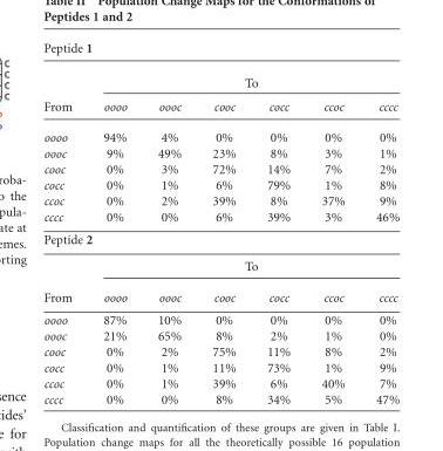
<table><thead><tr><td colspan="7">Peptide 1</td></tr><tr><td rowspan="2">From</td><td colspan="6">To</td></tr><tr><td>oooo</td><td>oooc</td><td>cooc</td><td>cocc</td><td>ccoc</td><td>cccc</td></tr></thead><tbody><tr><td>oooo</td><td>94%</td><td>4%</td><td>0%</td><td>0%</td><td>0%</td><td>0%</td></tr><tr><td>oooc</td><td>9%</td><td>49%</td><td>23%</td><td>8%</td><td>3%</td><td>1%</td></tr><tr><td>cooc</td><td>0%</td><td>3%</td><td>72%</td><td>14%</td><td>7%</td><td>2%</td></tr><tr><td>cocc</td><td>0%</td><td>1%</td><td>6%</td><td>79%</td><td>1%</td><td>8%</td></tr><tr><td>ccoc</td><td>0%</td><td>2%</td><td>39%</td><td>8%</td><td>37%</td><td>9%</td></tr><tr><td>cccc</td><td>0%</td><td>0%</td><td>6%</td><td>39%</td><td>3%</td><td>46%</td></tr><tr><td colspan="7">Peptide 2</td></tr><tr><td></td><td colspan="6">To</td></tr><tr><td>From</td><td>oooo</td><td>oooc</td><td>cooc</td><td>cocc</td><td>ccoc</td><td>cccc</td></tr><tr><td>oooo</td><td>87%</td><td>10%</td><td>0%</td><td>0%</td><td>0%</td><td>0%</td></tr><tr><td>oooc</td><td>21%</td><td>65%</td><td>8%</td><td>2%</td><td>1%</td><td>0%</td></tr><tr><td>cooc</td><td>0%</td><td>2%</td><td>75%</td><td>11%</td><td>8%</td><td>2%</td></tr><tr><td>cocc</td><td>0%</td><td>1%</td><td>11%</td><td>73%</td><td>1%</td><td>9%</td></tr><tr><td>ccoc</td><td>0%</td><td>1%</td><td>39%</td><td>6%</td><td>40%</td><td>7%</td></tr><tr><td>cccc</td><td>0%</td><td>0%</td><td>8%</td><td>34%</td><td>5%</td><td>47%</td></tr></tbody></table>